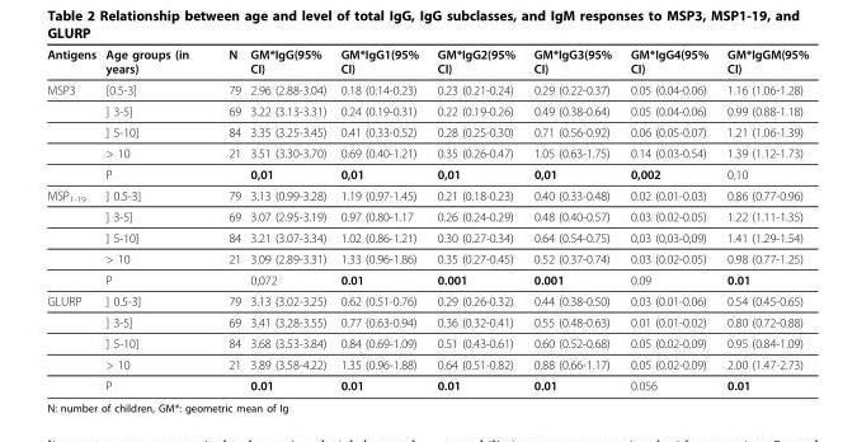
<table><thead><tr><td>Antigens</td><td>Age groups (in years)</td><td>N</td><td>GM*IgG(95% CI)</td><td>GM*IgG1(95% CI)</td><td>GM*IgG2(95% CI)</td><td>GM*IgG3(95% CI)</td><td>GM*IgG4(95% CI)</td><td>GM*IgGM(95% CI)</td></tr></thead><tbody><tr><td rowspan="5">MSP3</td><td>[0.5-3]</td><td>79</td><td>2.96 (2.88-3.04)</td><td>0.18 (0.14-0.23)</td><td>0.23 (0.21-0.24)</td><td>0.29 (0.22-0.37)</td><td>0.05 (0.04-0.06)</td><td>1.16 (1.06-1.28)</td></tr><tr><td>] 3-5]</td><td>69</td><td>3.22 (3.13-3.31)</td><td>0.24 (0.19-0.31)</td><td>0.22 (0.19-0.26)</td><td>0.49 (0.38-0.64)</td><td>0.05 (0.04-0.06)</td><td>0.99 (0.88-1.18)</td></tr><tr><td>] 5-10]</td><td>84</td><td>3.35 (3.25-3.45)</td><td>0.41 (0.33-0.52)</td><td>0.28 (0.25-0.30)</td><td>0.71 (0.56-0.92)</td><td>0.06 (0.05-0.07)</td><td>1.21 (1.06-1.39)</td></tr><tr><td>&gt; 10</td><td>21</td><td>3.51 (3.30-3.70)</td><td>0.69 (0.40-1.21)</td><td>0.35 (0.26-0.47)</td><td>1.05 (0.63-1.75)</td><td>0.14 (0.03-0.54)</td><td>1.39 (1.12-1.73)</td></tr><tr><td>P</td><td></td><td>0,01</td><td>0,01</td><td>0,01</td><td>0,01</td><td>0,002</td><td>0,10</td></tr><tr><td rowspan="5">MSP<sub>1-19</sub></td><td>] 0.5-3]</td><td>79</td><td>3.13 (0.99-3.28)</td><td>1.19 (0.97-1.45)</td><td>0.21 (0.18-0.23)</td><td>0.40 (0.33-0.48)</td><td>0.02 (0.01-0.03)</td><td>0.86 (0.77-0.96)</td></tr><tr><td>] 3-5]</td><td>69</td><td>3.07 (2.95-3.19)</td><td>0.97 (0.80-1.17</td><td>0.26 (0.24-0.29)</td><td>0.48 (0.40-0.57)</td><td>0.03 (0.02-0.05)</td><td>1.22 (1.11-1.35)</td></tr><tr><td>] 5-10]</td><td>84</td><td>3.21 (3.07-3.34)</td><td>1.02 (0.86-1.21)</td><td>0.30 (0.27-0.34)</td><td>0.64 (0.54-0.75)</td><td>0,03 (0,03-0,09)</td><td>1.41 (1.29-1.54)</td></tr><tr><td>&gt; 10</td><td>21</td><td>3.09 (2.89-3.31)</td><td>1.33 (0.96-1.86)</td><td>0.35 (0.27-0.45)</td><td>0.52 (0.37-0.74)</td><td>0.03 (0.02-0.05)</td><td>0.98 (0.77-1.25)</td></tr><tr><td>P</td><td></td><td>0,072</td><td>0.01</td><td>0.001</td><td>0.001</td><td>0.09</td><td>0.01</td></tr><tr><td rowspan="5">GLURP</td><td>] 0.5-3]</td><td>79</td><td>3.13 (3.02-3.25)</td><td>0.62 (0.51-0.76)</td><td>0.29 (0.26-0.32)</td><td>0.44 (0.38-0.50)</td><td>0.03 (0.01-0.06)</td><td>0.54 (0.45-0.65)</td></tr><tr><td>] 3-5]</td><td>69</td><td>3.41 (3.28-3.55)</td><td>0.77 (0.63-0.94)</td><td>0.36 (0.32-0.41)</td><td>0.55 (0.48-0.63)</td><td>0.01 (0.01-0.02)</td><td>0.80 (0.72-0.88)</td></tr><tr><td>] 5-10]</td><td>84</td><td>3.68 (3.53-3.84)</td><td>0.84 (0.69-1.09)</td><td>0.51 (0.43-0.61)</td><td>0.60 (0.52-0.68)</td><td>0.05 (0.02-0.09)</td><td>0.95 (0.84-1.09)</td></tr><tr><td>&gt; 10</td><td>21</td><td>3.89 (3.58-4.22)</td><td>1.35 (0.96-1.88)</td><td>0.64 (0.51-0.82)</td><td>0.88 (0.66-1.17)</td><td>0.05 (0.02-0.09)</td><td>2.00 (1.47-2.73)</td></tr><tr><td>P</td><td></td><td>0.01</td><td>0.01</td><td>0.01</td><td>0.01</td><td>0.056</td><td>0.01</td></tr></tbody></table>